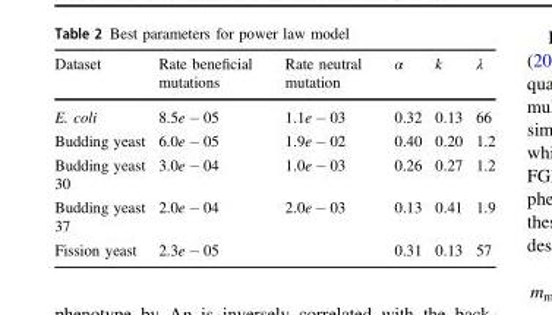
<table><thead><tr><td>Dataset</td><td>Rate beneficial mutations</td><td>Rate neutral mutation</td><td>α</td><td>k</td><td>λ</td></tr></thead><tbody><tr><td>E. coli</td><td>8.5e − 05</td><td>1.1e − 03</td><td>0.32</td><td>0.13</td><td>66</td></tr><tr><td>Budding yeast</td><td>6.0e − 05</td><td>1.9e − 02</td><td>0.40</td><td>0.20</td><td>1.2</td></tr><tr><td>Budding yeast 30</td><td>3.0e − 04</td><td>1.0e − 03</td><td>0.26</td><td>0.27</td><td>1.2</td></tr><tr><td>Budding yeast 37</td><td>2.0e − 04</td><td>2.0e − 03</td><td>0.13</td><td>0.41</td><td>1.9</td></tr><tr><td>Fission yeast</td><td>2.3e − 05</td><td></td><td>0.31</td><td>0.13</td><td>57</td></tr></tbody></table>